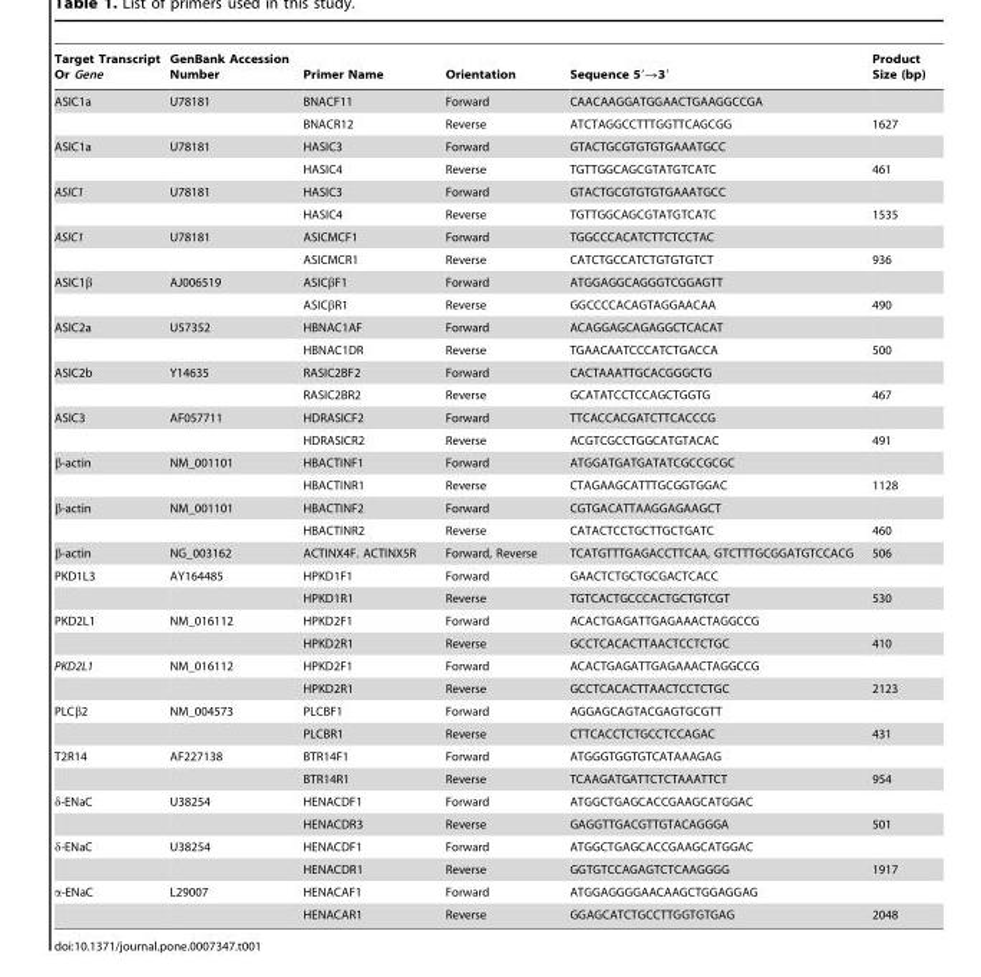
<table><thead><tr><td>Target Transcript Or Gene</td><td>GenBank Accession Number</td><td>Primer Name</td><td>Orientation</td><td>Sequence 5′→3′</td><td>Product Size (bp)</td></tr></thead><tbody><tr><td rowspan="2">ASIC1a</td><td>U78181</td><td>BNACF11</td><td>Forward</td><td>CAACAAGGATGGAACTGAAGGCCGA</td><td></td></tr><tr><td></td><td>BNACR12</td><td>Reverse</td><td>ATCTAGGCCTTTGGTTCAGCGG</td><td>1627</td></tr><tr><td rowspan="2">ASIC1a</td><td>U78181</td><td>HASIC3</td><td>Forward</td><td>GTACTGCGTGTGTGAAATGCC</td><td></td></tr><tr><td></td><td>HASIC4</td><td>Reverse</td><td>TGTTGGCAGCGTATGTCATC</td><td>461</td></tr><tr><td rowspan="2">ASIC1</td><td>U78181</td><td>HASIC3</td><td>Forward</td><td>GTACTGCGTGTGTGAAATGCC</td><td></td></tr><tr><td></td><td>HASIC4</td><td>Reverse</td><td>TGTTGGCAGCGTATGTCATC</td><td>1535</td></tr><tr><td rowspan="2">ASIC1</td><td>U78181</td><td>ASICMCF1</td><td>Forward</td><td>TGGCCCACATCTTCTCCTAC</td><td></td></tr><tr><td></td><td>ASICMCR1</td><td>Reverse</td><td>CATCTGCCATCTGTGTGTCT</td><td>936</td></tr><tr><td rowspan="2">ASIC1β</td><td>AJ006519</td><td>ASICβF1</td><td>Forward</td><td>ATGGAGGCAGGGTCGGAGTT</td><td></td></tr><tr><td></td><td>ASICβR1</td><td>Reverse</td><td>GGCCCCACAGTAGGAACAA</td><td>490</td></tr><tr><td rowspan="2">ASIC2a</td><td>U57352</td><td>HBNAC1AF</td><td>Forward</td><td>ACAGGAGCAGAGGCTCACAT</td><td></td></tr><tr><td></td><td>HBNAC1DR</td><td>Reverse</td><td>TGAACAATCCCATCTGACCA</td><td>500</td></tr><tr><td rowspan="2">ASIC2b</td><td>Y14635</td><td>RASIC2BF2</td><td>Forward</td><td>CACTAAATTGCACGGGCTG</td><td></td></tr><tr><td></td><td>RASIC2BR2</td><td>Reverse</td><td>GCATATCCTCCAGCTGGTG</td><td>467</td></tr><tr><td rowspan="2">ASIC3</td><td>AF057711</td><td>HDRASICF2</td><td>Forward</td><td>TTCACCACGATCTTCACCCG</td><td></td></tr><tr><td></td><td>HDRASICR2</td><td>Reverse</td><td>ACGTCGCCTGGCATGTACAC</td><td>491</td></tr><tr><td rowspan="2">β-actin</td><td>NM_001101</td><td>HBACTINF1</td><td>Forward</td><td>ATGGATGATGATATCGCCGCGC</td><td></td></tr><tr><td></td><td>HBACTINR1</td><td>Reverse</td><td>CTAGAAGCATTTGCGGTGGAC</td><td>1128</td></tr><tr><td rowspan="2">β-actin</td><td>NM_001101</td><td>HBACTINF2</td><td>Forward</td><td>CGTGACATTAAGGAGAAGCT</td><td></td></tr><tr><td></td><td>HBACTINR2</td><td>Reverse</td><td>CATACTCCTGCTTGCTGATC</td><td>460</td></tr><tr><td>β-actin</td><td>NG_003162</td><td>ACTINX4F. ACTINX5R</td><td>Forward, Reverse</td><td>TCATGTTTGAGACCTTCAA, GTCTTTGCGGATGTCCACG</td><td>506</td></tr><tr><td rowspan="2">PKD1L3</td><td>AY164485</td><td>HPKD1F1</td><td>Forward</td><td>GAACTCTGCTGCGACTCACC</td><td></td></tr><tr><td></td><td>HPKD1R1</td><td>Reverse</td><td>TGTCACTGCCCACTGCTGTCGT</td><td>530</td></tr><tr><td rowspan="2">PKD2L1</td><td>NM_016112</td><td>HPKD2F1</td><td>Forward</td><td>ACACTGAGATTGAGAAACTAGGCCG</td><td></td></tr><tr><td></td><td>HPKD2R1</td><td>Reverse</td><td>GCCTCACACTTAACTCCTCTGC</td><td>410</td></tr><tr><td rowspan="2">PKD2L1</td><td>NM_016112</td><td>HPKD2F1</td><td>Forward</td><td>ACACTGAGATTGAGAAACTAGGCCG</td><td></td></tr><tr><td></td><td>HPKD2R1</td><td>Reverse</td><td>GCCTCACACTTAACTCCTCTGC</td><td>2123</td></tr><tr><td rowspan="2">PLCβ2</td><td>NM_004573</td><td>PLCBF1</td><td>Forward</td><td>AGGAGCAGTACGAGTGCGTT</td><td></td></tr><tr><td></td><td>PLCBR1</td><td>Reverse</td><td>CTTCACCTCTGCCTCCAGAC</td><td>431</td></tr><tr><td rowspan="2">T2R14</td><td>AF227138</td><td>BTR14F1</td><td>Forward</td><td>ATGGGTGGTGTCATAAAGAG</td><td></td></tr><tr><td></td><td>BTR14R1</td><td>Reverse</td><td>TCAAGATGATTCTCTAAATTCT</td><td>954</td></tr><tr><td rowspan="2">δ-ENaC</td><td>U38254</td><td>HENACDF1</td><td>Forward</td><td>ATGGCTGAGCACCGAAGCATGGAC</td><td></td></tr><tr><td></td><td>HENACDR3</td><td>Reverse</td><td>GAGGTTGACGTTGTACAGGGA</td><td>501</td></tr><tr><td rowspan="2">δ-ENaC</td><td>U38254</td><td>HENACDF1</td><td>Forward</td><td>ATGGCTGAGCACCGAAGCATGGAC</td><td></td></tr><tr><td></td><td>HENACDR1</td><td>Reverse</td><td>GGTGTCCAGAGTCTCAAGGGG</td><td>1917</td></tr><tr><td rowspan="2">α-ENaC</td><td>L29007</td><td>HENACAF1</td><td>Forward</td><td>ATGGAGGGGAACAAGCTGGAGGAG</td><td></td></tr><tr><td></td><td>HENACAR1</td><td>Reverse</td><td>GGAGCATCTGCCTTGGTGTGAG</td><td>2048</td></tr></tbody></table>